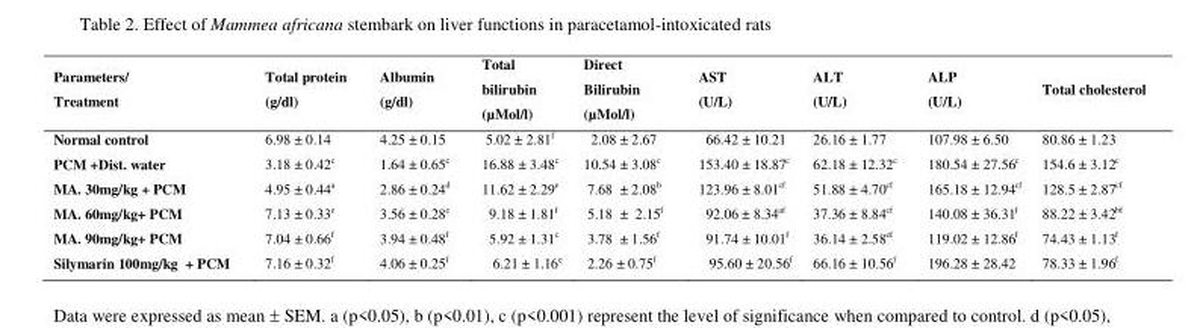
<table><thead><tr><td>Parameters/ Treatment</td><td>Total protein (g/dl)</td><td>Albumin (g/dl)</td><td>Total bilirubin (µMol/l)</td><td>Direct Bilirubin (µMol/l)</td><td>AST (U/L)</td><td>ALT (U/L)</td><td>ALP (U/L)</td><td>Total cholesterol</td></tr></thead><tbody><tr><td>Normal control</td><td>6.98 ± 0.14</td><td>4.25 ± 0.15</td><td>5.02 ± 2.81<sup>f</sup></td><td>2.08 ± 2.67</td><td>66.42 ± 10.21</td><td>26.16 ± 1.77</td><td>107.98 ± 6.50</td><td>80.86 ± 1.23</td></tr><tr><td>PCM +Dist. water</td><td>3.18 ± 0.42<sup>c</sup></td><td>1.64 ± 0.65<sup>c</sup></td><td>16.88 ± 3.48<sup>c</sup></td><td>10.54 ± 3.08<sup>c</sup></td><td>153.40 ± 18.87<sup>c</sup></td><td>62.18 ± 12.32<sup>c</sup></td><td>180.54 ± 27.56<sup>c</sup></td><td>154.6 ± 3.12<sup>c</sup></td></tr><tr><td>MA. 30mg/kg + PCM</td><td>4.95 ± 0.44<sup>a</sup></td><td>2.86 ± 0.24<sup>d</sup></td><td>11.62 ± 2.29<sup>e</sup></td><td>7.68 ± 2.08<sup>b</sup></td><td>123.96 ± 8.01<sup>cf</sup></td><td>51.88 ± 4.70<sup>cf</sup></td><td>165.18 ± 12.94<sup>cf</sup></td><td>128.5 ± 2.87<sup>cf</sup></td></tr><tr><td>MA. 60mg/kg+ PCM</td><td>7.13 ± 0.33<sup>e</sup></td><td>3.56 ± 0.28<sup>e</sup></td><td>9.18 ± 1.81<sup>f</sup></td><td>5.18 ± 2.15<sup>f</sup></td><td>92.06 ± 8.34<sup>af</sup></td><td>37.36 ± 8.84<sup>cf</sup></td><td>140.08 ± 36.31<sup>f</sup></td><td>88.22 ± 3.42<sup>bf</sup></td></tr><tr><td>MA. 90mg/kg+ PCM</td><td>7.04 ± 0.66<sup>f</sup></td><td>3.94 ± 0.48<sup>f</sup></td><td>5.92 ± 1.31<sup>c</sup></td><td>3.78 ± 1.56<sup>f</sup></td><td>91.74 ± 10.01<sup>f</sup></td><td>36.14 ± 2.58<sup>ef</sup></td><td>119.02 ± 12.86<sup>f</sup></td><td>74.43 ± 1.13<sup>f</sup></td></tr><tr><td>Silymarin 100mg/kg + PCM</td><td>7.16 ± 0.32<sup>f</sup></td><td>4.06 ± 0.25<sup>f</sup></td><td>6.21 ± 1.16<sup>e</sup></td><td>2.26 ± 0.75<sup>f</sup></td><td>95.60 ± 20.56<sup>f</sup></td><td>66.16 ± 10.56<sup>f</sup></td><td>196.28 ± 28.42</td><td>78.33 ± 1.96<sup>f</sup></td></tr></tbody></table>